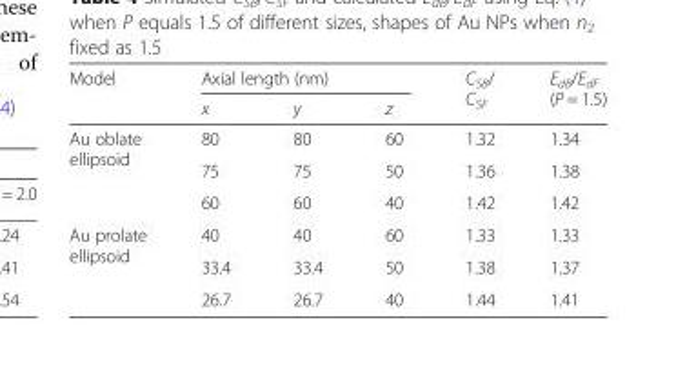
<table><thead><tr><td rowspan="2">Model</td><td colspan="3">Axial length (nm)</td><td rowspan="2">C<sub>SB</sub>/ C<sub>SF</sub></td><td rowspan="2">E<sub>dB</sub>/E<sub>dF</sub> (P = 1.5)</td></tr><tr><td>x</td><td>y</td><td>z</td></tr></thead><tbody><tr><td rowspan="3">Au oblate ellipsoid</td><td>80</td><td>80</td><td>60</td><td>1.32</td><td>1.34</td></tr><tr><td>75</td><td>75</td><td>50</td><td>1.36</td><td>1.38</td></tr><tr><td>60</td><td>60</td><td>40</td><td>1.42</td><td>1.42</td></tr><tr><td rowspan="3">Au prolate ellipsoid</td><td>40</td><td>40</td><td>60</td><td>1.33</td><td>1.33</td></tr><tr><td>33.4</td><td>33.4</td><td>50</td><td>1.38</td><td>1.37</td></tr><tr><td>26.7</td><td>26.7</td><td>40</td><td>1.44</td><td>1.41</td></tr></tbody></table>